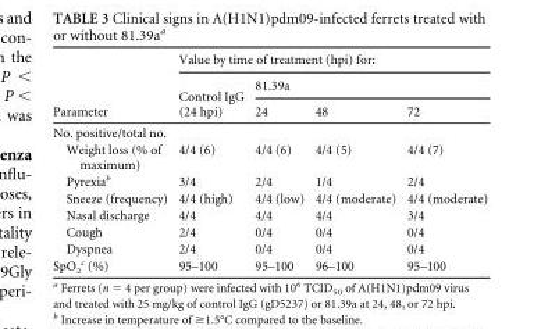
<table><thead><tr><td rowspan="3">Parameter</td><td colspan="4">Value by time of treatment (hpi) for:</td></tr><tr><td rowspan="2">Control IgG (24 hpi)</td><td colspan="3">81.39a</td></tr><tr><td>24</td><td>48</td><td>72</td></tr></thead><tbody><tr><td colspan="5">No. positive/total no.</td></tr><tr><td>Weight loss (% of maximum)</td><td>4/4 (6)</td><td>4/4 (6)</td><td>4/4 (5)</td><td>4/4 (7)</td></tr><tr><td>Pyrexia<sup>b</sup></td><td>3/4</td><td>2/4</td><td>1/4</td><td>2/4</td></tr><tr><td>Sneeze (frequency)</td><td>4/4 (high)</td><td>4/4 (low)</td><td>4/4 (moderate)</td><td>4/4 (moderate)</td></tr><tr><td>Nasal discharge</td><td>4/4</td><td>4/4</td><td>4/4</td><td>3/4</td></tr><tr><td>Cough</td><td>2/4</td><td>0/4</td><td>0/4</td><td>0/4</td></tr><tr><td>Dyspnea</td><td>2/4</td><td>0/4</td><td>0/4</td><td>0/4</td></tr><tr><td>SpO<sub>2</sub> <sup>c</sup> (%)</td><td>95–100</td><td>95–100</td><td>96–100</td><td>95–100</td></tr></tbody></table>